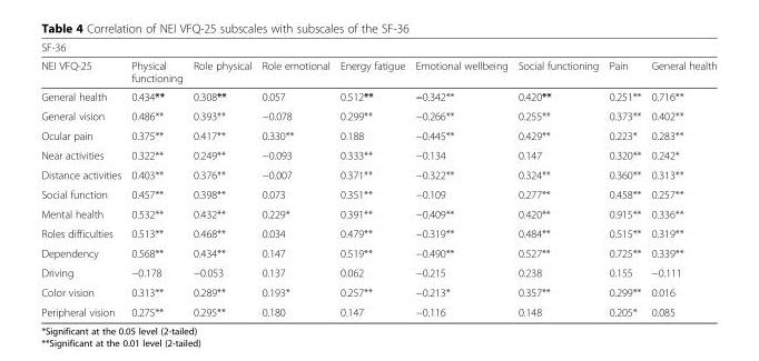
<table><thead><tr><td colspan="9">SF-36</td></tr><tr><td>NEI VFQ-25</td><td>Physical functioning</td><td>Role physical</td><td>Role emotional</td><td>Energy fatigue</td><td>Emotional wellbeing</td><td>Social functioning</td><td>Pain</td><td>General health</td></tr></thead><tbody><tr><td>General health</td><td>0.434**</td><td>0.308**</td><td>0.057</td><td>0.512**</td><td>−0.342**</td><td>0.420**</td><td>0.251**</td><td>0.716**</td></tr><tr><td>General vision</td><td>0.486**</td><td>0.393**</td><td>−0.078</td><td>0.299**</td><td>−0.266**</td><td>0.255**</td><td>0.373**</td><td>0.402**</td></tr><tr><td>Ocular pain</td><td>0.375**</td><td>0.417**</td><td>0.330**</td><td>0.188</td><td>−0.445**</td><td>0.429**</td><td>0.223*</td><td>0.283**</td></tr><tr><td>Near activities</td><td>0.322**</td><td>0.249**</td><td>−0.093</td><td>0.333**</td><td>−0.134</td><td>0.147</td><td>0.320**</td><td>0.242*</td></tr><tr><td>Distance activities</td><td>0.403**</td><td>0.376**</td><td>−0.007</td><td>0.371**</td><td>−0.322**</td><td>0.324**</td><td>0.360**</td><td>0.313**</td></tr><tr><td>Social function</td><td>0.457**</td><td>0.398**</td><td>0.073</td><td>0.351**</td><td>−0.109</td><td>0.277**</td><td>0.458**</td><td>0.257**</td></tr><tr><td>Mental health</td><td>0.532**</td><td>0.432**</td><td>0.229*</td><td>0.391**</td><td>−0.409**</td><td>0.420**</td><td>0.915**</td><td>0.336**</td></tr><tr><td>Roles difficulties</td><td>0.513**</td><td>0.468**</td><td>0.034</td><td>0.479**</td><td>−0.319**</td><td>0.484**</td><td>0.515**</td><td>0.319**</td></tr><tr><td>Dependency</td><td>0.568**</td><td>0.434**</td><td>0.147</td><td>0.519**</td><td>−0.490**</td><td>0.527**</td><td>0.725**</td><td>0.339**</td></tr><tr><td>Driving</td><td>−0.178</td><td>−0.053</td><td>0.137</td><td>0.062</td><td>−0.215</td><td>0.238</td><td>0.155</td><td>−0.111</td></tr><tr><td>Color vision</td><td>0.313**</td><td>0.289**</td><td>0.193*</td><td>0.257**</td><td>−0.213*</td><td>0.357**</td><td>0.299**</td><td>0.016</td></tr><tr><td>Peripheral vision</td><td>0.275**</td><td>0.295**</td><td>0.180</td><td>0.147</td><td>−0.116</td><td>0.148</td><td>0.205*</td><td>0.085</td></tr></tbody></table>